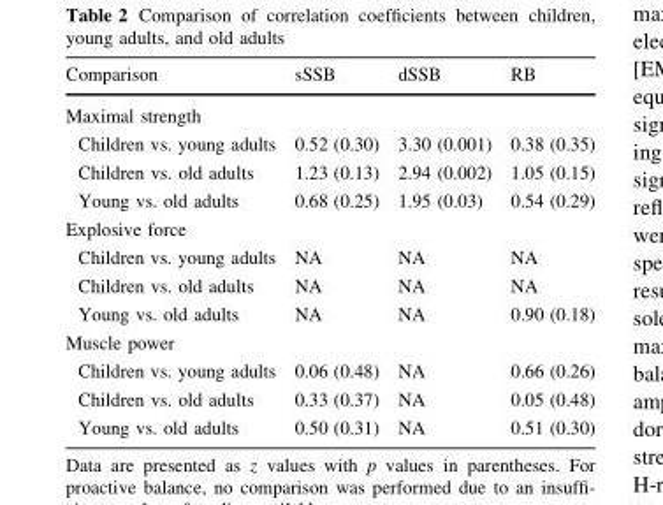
<table><thead><tr><td>Comparison</td><td>sSSB</td><td>dSSB</td><td>RB</td></tr></thead><tbody><tr><td colspan="4">Maximal strength</td></tr><tr><td>Children vs. young adults</td><td>0.52 (0.30)</td><td>3.30 (0.001)</td><td>0.38 (0.35)</td></tr><tr><td>Children vs. old adults</td><td>1.23 (0.13)</td><td>2.94 (0.002)</td><td>1.05 (0.15)</td></tr><tr><td>Young vs. old adults</td><td>0.68 (0.25)</td><td>1.95 (0.03)</td><td>0.54 (0.29)</td></tr><tr><td colspan="4">Explosive force</td></tr><tr><td>Children vs. young adults</td><td>NA</td><td>NA</td><td>NA</td></tr><tr><td>Children vs. old adults</td><td>NA</td><td>NA</td><td>NA</td></tr><tr><td>Young vs. old adults</td><td>NA</td><td>NA</td><td>0.90 (0.18)</td></tr><tr><td colspan="4">Muscle power</td></tr><tr><td>Children vs. young adults</td><td>0.06 (0.48)</td><td>NA</td><td>0.66 (0.26)</td></tr><tr><td>Children vs. old adults</td><td>0.33 (0.37)</td><td>NA</td><td>0.05 (0.48)</td></tr><tr><td>Young vs. old adults</td><td>0.50 (0.31)</td><td>NA</td><td>0.51 (0.30)</td></tr></tbody></table>